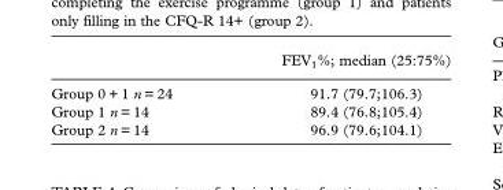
<table><thead><tr><td></td><td>FEV<sub>1</sub>%; median (25:75%)</td></tr></thead><tbody><tr><td>Group 0 + 1 n = 24</td><td>91.7 (79.7;106.3)</td></tr><tr><td>Group 1 n = 14</td><td>89.4 (76.8;105.4)</td></tr><tr><td>Group 2 n = 14</td><td>96.9 (79.6;104.1)</td></tr></tbody></table>